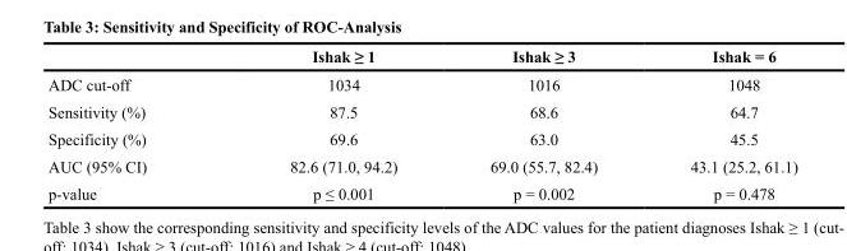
<table><thead><tr><td></td><td>Ishak ≥ 1</td><td>Ishak ≥ 3</td><td>Ishak = 6</td></tr></thead><tbody><tr><td>ADC cut-off</td><td>1034</td><td>1016</td><td>1048</td></tr><tr><td>Sensitivity (%)</td><td>87.5</td><td>68.6</td><td>64.7</td></tr><tr><td>Specificity (%)</td><td>69.6</td><td>63.0</td><td>45.5</td></tr><tr><td>AUC (95% CI)</td><td>82.6 (71.0, 94.2)</td><td>69.0 (55.7, 82.4)</td><td>43.1 (25.2, 61.1)</td></tr><tr><td>p-value</td><td>p ≤ 0.001</td><td>p = 0.002</td><td>p = 0.478</td></tr></tbody></table>